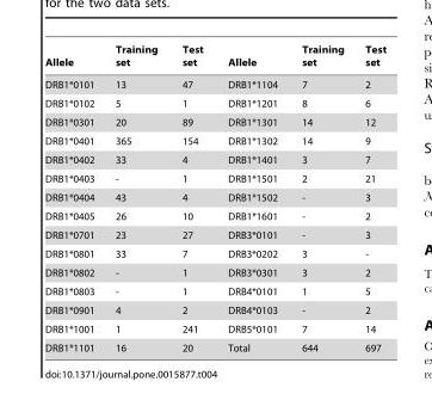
<table><thead><tr><td>Allele</td><td>Training set</td><td>Test set</td><td>Allele</td><td>Training set</td><td>Test set</td></tr></thead><tbody><tr><td>DRB1*0101</td><td>13</td><td>47</td><td>DRB1*1104</td><td>7</td><td>2</td></tr><tr><td>DRB1*0102</td><td>5</td><td>1</td><td>DRB1*1201</td><td>8</td><td>6</td></tr><tr><td>DRB1*0301</td><td>20</td><td>89</td><td>DRB1*1301</td><td>14</td><td>12</td></tr><tr><td>DRB1*0401</td><td>365</td><td>154</td><td>DRB1*1302</td><td>14</td><td>9</td></tr><tr><td>DRB1*0402</td><td>33</td><td>4</td><td>DRB1*1401</td><td>3</td><td>7</td></tr><tr><td>DRB1*0403</td><td>-</td><td>1</td><td>DRB1*1501</td><td>2</td><td>21</td></tr><tr><td>DRB1*0404</td><td>43</td><td>4</td><td>DRB1*1502</td><td>-</td><td>3</td></tr><tr><td>DRB1*0405</td><td>26</td><td>10</td><td>DRB1*1601</td><td>-</td><td>2</td></tr><tr><td>DRB1*0701</td><td>23</td><td>27</td><td>DRB3*0101</td><td>-</td><td>3</td></tr><tr><td>DRB1*0801</td><td>33</td><td>7</td><td>DRB3*0202</td><td>3</td><td>-</td></tr><tr><td>DRB1*0802</td><td>-</td><td>1</td><td>DRB3*0301</td><td>3</td><td>2</td></tr><tr><td>DRB1*0803</td><td>-</td><td>1</td><td>DRB4*0101</td><td>1</td><td>5</td></tr><tr><td>DRB1*0901</td><td>4</td><td>2</td><td>DRB4*0103</td><td>-</td><td>2</td></tr><tr><td>DRB1*1001</td><td>1</td><td>241</td><td>DRB5*0101</td><td>7</td><td>14</td></tr><tr><td>DRB1*1101</td><td>16</td><td>20</td><td>Total</td><td>644</td><td>697</td></tr></tbody></table>